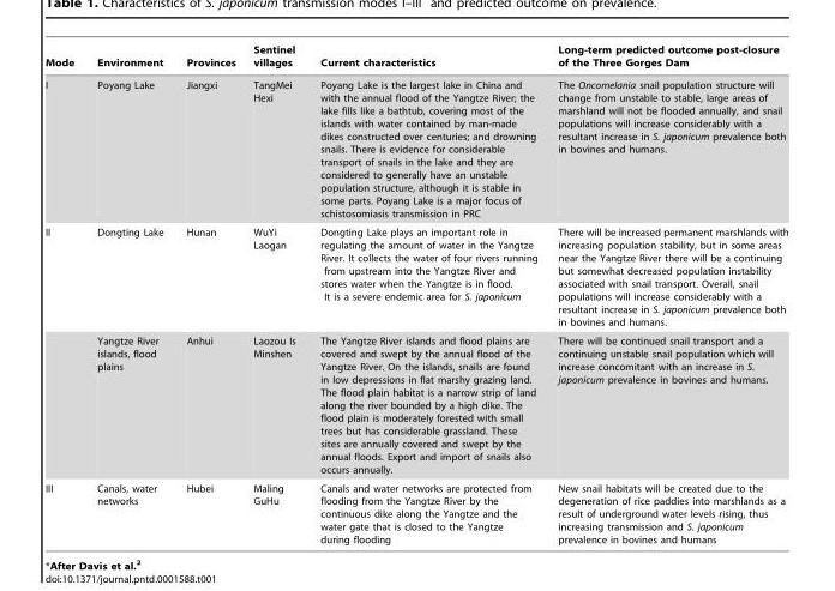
<table><thead><tr><td>Mode</td><td>Environment</td><td>Provinces</td><td>Sentinel villages</td><td>Current characteristics</td><td>Long-term predicted outcome post-closure of the Three Gorges Dam</td></tr></thead><tbody><tr><td>I</td><td>Poyang Lake</td><td>Jiangxi</td><td>TangMei Hexi</td><td>Poyang Lake is the largest lake in China and with the annual flood of the Yangtze River; the lake fills like a bathtub, covering most of the islands with water contained by man-made dikes constructed over centuries; and drowning snails. There is evidence for considerable transport of snails in the lake and they are considered to generally have an unstable population structure, although it is stable in some parts. Poyang Lake is a major focus of schistosomiasis transmission in PRC</td><td>The Oncomelania snail population structure will change from unstable to stable, large areas of marshland will not be flooded annually, and snail populations will increase considerably with a resultant increase in S. japonicum prevalence both in bovines and humans.</td></tr><tr><td rowspan="2">II</td><td>Dongting Lake</td><td>Hunan</td><td>WuYi Laogan</td><td>Dongting Lake plays an important role in regulating the amount of water in the Yangtze River. It collects the water of four rivers running from upstream into the Yangtze River and stores water when the Yangtze is in flood. It is a severe endemic area for S. japonicum</td><td>There will be increased permanent marshlands with increasing population stability, but in some areas near the Yangtze River there will be a continuing but somewhat decreased population instability associated with snail transport. Overall, snail populations will increase considerably with a resultant increase in S. japonicum prevalence both in bovines and humans.</td></tr><tr><td>Yangtze River islands, flood plains</td><td>Anhui</td><td>Laozou Is Minshen</td><td>The Yangtze River islands and flood plains are covered and swept by the annual flood of the Yangtze River. On the islands, snails are found in low depressions in flat marshy grazing land. The flood plain habitat is a narrow strip of land along the river bounded by a high dike. The flood plain is moderately forested with small trees but has considerable grassland. These sites are annually covered and swept by the annual floods. Export and import of snails also occurs annually.</td><td>There will be continued snail transport and a continuing unstable snail population which will increase concomitant with an increase in S. japonicum prevalence in bovines and humans.</td></tr><tr><td>III</td><td>Canals, water networks</td><td>Hubei</td><td>Maling GuHu</td><td>Canals and water networks are protected from flooding from the Yangtze River by the continuous dike along the Yangtze and the water gate that is closed to the Yangtze during flooding</td><td>New snail habitats will be created due to the degeneration of rice paddies into marshlands as a result of underground water levels rising, thus increasing transmission and S. japonicum prevalence in bovines and humans</td></tr></tbody></table>